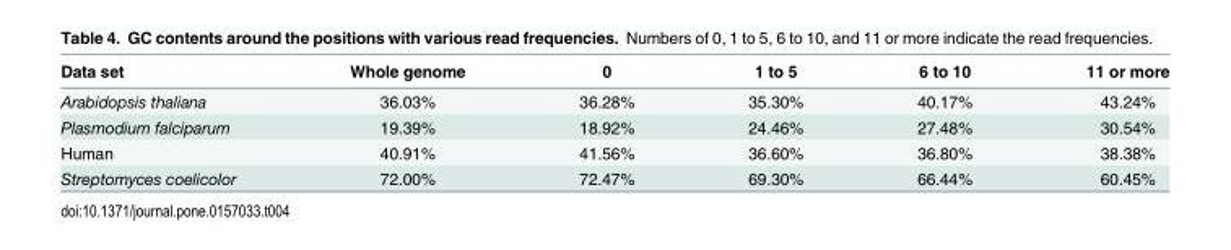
<table><thead><tr><td>Data set</td><td>Whole genome</td><td>0</td><td>1 to 5</td><td>6 to 10</td><td>11 or more</td></tr></thead><tbody><tr><td>Arabidopsis thaliana</td><td>36.03%</td><td>36.28%</td><td>35.30%</td><td>40.17%</td><td>43.24%</td></tr><tr><td>Plasmodium falciparum</td><td>19.39%</td><td>18.92%</td><td>24.46%</td><td>27.48%</td><td>30.54%</td></tr><tr><td>Human</td><td>40.91%</td><td>41.56%</td><td>36.60%</td><td>36.80%</td><td>38.38%</td></tr><tr><td>Streptomyces coelicolor</td><td>72.00%</td><td>72.47%</td><td>69.30%</td><td>66.44%</td><td>60.45%</td></tr></tbody></table>